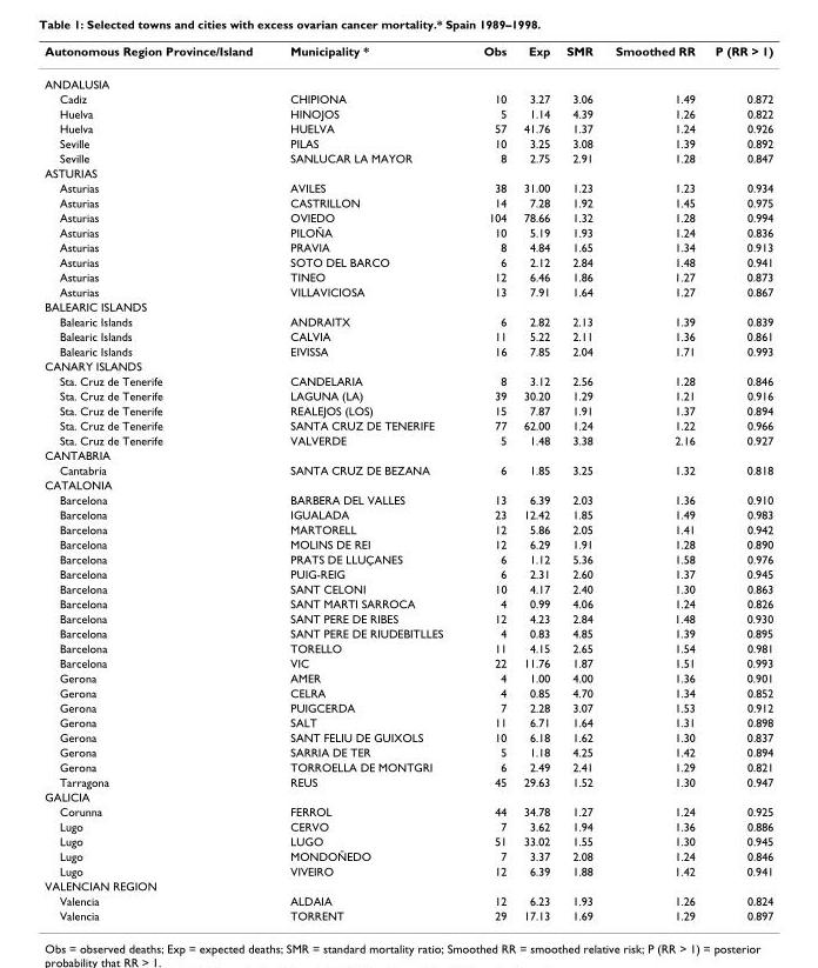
<table><tbody><tr><td>Autonomous Region Province/Island</td><td>Municipality *</td><td>Obs</td><td>Exp</td><td>SMR</td><td>Smoothed RR</td><td>P (RR &gt; 1)</td></tr><tr><td colspan="7">ANDALUSIA</td></tr><tr><td>Cadiz</td><td>CHIPIONA</td><td>10</td><td>3.27</td><td>3.06</td><td>1.49</td><td>0.872</td></tr><tr><td>Huelva</td><td>HINOJOS</td><td>5</td><td>1.14</td><td>4.39</td><td>1.26</td><td>0.822</td></tr><tr><td>Huelva</td><td>HUELVA</td><td>57</td><td>41.76</td><td>1.37</td><td>1.24</td><td>0.926</td></tr><tr><td>Seville</td><td>PILAS</td><td>10</td><td>3.25</td><td>3.08</td><td>1.39</td><td>0.892</td></tr><tr><td>Seville</td><td>SANLUCAR LA MAYOR</td><td>8</td><td>2.75</td><td>2.91</td><td>1.28</td><td>0.847</td></tr><tr><td colspan="7">ASTURIAS</td></tr><tr><td>Asturias</td><td>AVILES</td><td>38</td><td>31.00</td><td>1.23</td><td>1.23</td><td>0.934</td></tr><tr><td>Asturias</td><td>CASTRILLON</td><td>14</td><td>7.28</td><td>1.92</td><td>1.45</td><td>0.975</td></tr><tr><td>Asturias</td><td>OVIEDO</td><td>104</td><td>78.66</td><td>1.32</td><td>1.28</td><td>0.994</td></tr><tr><td>Asturias</td><td>PILOÑA</td><td>10</td><td>5.19</td><td>1.93</td><td>1.24</td><td>0.836</td></tr><tr><td>Asturias</td><td>PRAVIA</td><td>8</td><td>4.84</td><td>1.65</td><td>1.34</td><td>0.913</td></tr><tr><td>Asturias</td><td>SOTO DEL BARCO</td><td>6</td><td>2.12</td><td>2.84</td><td>1.48</td><td>0.941</td></tr><tr><td>Asturias</td><td>TINEO</td><td>12</td><td>6.46</td><td>1.86</td><td>1.27</td><td>0.873</td></tr><tr><td>Asturias</td><td>VILLAVICIOSA</td><td>13</td><td>7.91</td><td>1.64</td><td>1.27</td><td>0.867</td></tr><tr><td colspan="7">BALEARIC ISLANDS</td></tr><tr><td>Balearic Islands</td><td>ANDRAITX</td><td>6</td><td>2.82</td><td>2.13</td><td>1.39</td><td>0.839</td></tr><tr><td>Balearic Islands</td><td>CALVIA</td><td>11</td><td>5.22</td><td>2.11</td><td>1.36</td><td>0.861</td></tr><tr><td>Balearic Islands</td><td>EIVISSA</td><td>16</td><td>7.85</td><td>2.04</td><td>1.71</td><td>0.993</td></tr><tr><td colspan="7">CANARY ISLANDS</td></tr><tr><td>Sta. Cruz de Tenerife</td><td>CANDELARIA</td><td>8</td><td>3.12</td><td>2.56</td><td>1.28</td><td>0.846</td></tr><tr><td>Sta. Cruz de Tenerife</td><td>LAGUNA (LA)</td><td>39</td><td>30.20</td><td>1.29</td><td>1.21</td><td>0.916</td></tr><tr><td>Sta. Cruz de Tenerife</td><td>REALEJOS (LOS)</td><td>15</td><td>7.87</td><td>1.91</td><td>1.37</td><td>0.894</td></tr><tr><td>Sta. Cruz de Tenerife</td><td>SANTA CRUZ DE TENERIFE</td><td>77</td><td>62.00</td><td>1.24</td><td>1.22</td><td>0.966</td></tr><tr><td>Sta. Cruz de Tenerife</td><td>VALVERDE</td><td>5</td><td>1.48</td><td>3.38</td><td>2.16</td><td>0.927</td></tr><tr><td colspan="7">CANTABRIA</td></tr><tr><td>Cantabria</td><td>SANTA CRUZ DE BEZANA</td><td>6</td><td>1.85</td><td>3.25</td><td>1.32</td><td>0.818</td></tr><tr><td colspan="7">CATALONIA</td></tr><tr><td>Barcelona</td><td>BARBERA DEL VALLES</td><td>13</td><td>6.39</td><td>2.03</td><td>1.36</td><td>0.910</td></tr><tr><td>Barcelona</td><td>IGUALADA</td><td>23</td><td>12.42</td><td>1.85</td><td>1.49</td><td>0.983</td></tr><tr><td>Barcelona</td><td>MARTORELL</td><td>12</td><td>5.86</td><td>2.05</td><td>1.41</td><td>0.942</td></tr><tr><td>Barcelona</td><td>MOLINS DE REI</td><td>12</td><td>6.29</td><td>1.91</td><td>1.28</td><td>0.890</td></tr><tr><td>Barcelona</td><td>PRATS DE LLUÇANES</td><td>6</td><td>1.12</td><td>5.36</td><td>1.58</td><td>0.976</td></tr><tr><td>Barcelona</td><td>PUIG-REIG</td><td>6</td><td>2.31</td><td>2.60</td><td>1.37</td><td>0.945</td></tr><tr><td>Barcelona</td><td>SANT CELONI</td><td>10</td><td>4.17</td><td>2.40</td><td>1.30</td><td>0.863</td></tr><tr><td>Barcelona</td><td>SANT MARTI SARROCA</td><td>4</td><td>0.99</td><td>4.06</td><td>1.24</td><td>0.826</td></tr><tr><td>Barcelona</td><td>SANT PERE DE RIBES</td><td>12</td><td>4.23</td><td>2.84</td><td>1.48</td><td>0.930</td></tr><tr><td>Barcelona</td><td>SANT PERE DE RIUDEBITLLES</td><td>4</td><td>0.83</td><td>4.85</td><td>1.39</td><td>0.895</td></tr><tr><td>Barcelona</td><td>TORELLO</td><td>11</td><td>4.15</td><td>2.65</td><td>1.54</td><td>0.981</td></tr><tr><td>Barcelona</td><td>VIC</td><td>22</td><td>11.76</td><td>1.87</td><td>1.51</td><td>0.993</td></tr><tr><td>Gerona</td><td>AMER</td><td>4</td><td>1.00</td><td>4.00</td><td>1.36</td><td>0.901</td></tr><tr><td>Gerona</td><td>CELRA</td><td>4</td><td>0.85</td><td>4.70</td><td>1.34</td><td>0.852</td></tr><tr><td>Gerona</td><td>PUIGCERDA</td><td>7</td><td>2.28</td><td>3.07</td><td>1.53</td><td>0.912</td></tr><tr><td>Gerona</td><td>SALT</td><td>11</td><td>6.71</td><td>1.64</td><td>1.31</td><td>0.898</td></tr><tr><td>Gerona</td><td>SANT FELIU DE GUIXOLS</td><td>10</td><td>6.18</td><td>1.62</td><td>1.30</td><td>0.837</td></tr><tr><td>Gerona</td><td>SARRIA DE TER</td><td>5</td><td>1.18</td><td>4.25</td><td>1.42</td><td>0.894</td></tr><tr><td>Gerona</td><td>TORROELLA DE MONTGRI</td><td>6</td><td>2.49</td><td>2.41</td><td>1.29</td><td>0.821</td></tr><tr><td>Tarragona</td><td>REUS</td><td>45</td><td>29.63</td><td>1.52</td><td>1.30</td><td>0.947</td></tr><tr><td colspan="7">GALICIA</td></tr><tr><td>Corunna</td><td>FERROL</td><td>44</td><td>34.78</td><td>1.27</td><td>1.24</td><td>0.925</td></tr><tr><td>Lugo</td><td>CERVO</td><td>7</td><td>3.62</td><td>1.94</td><td>1.36</td><td>0.886</td></tr><tr><td>Lugo</td><td>LUGO</td><td>51</td><td>33.02</td><td>1.55</td><td>1.30</td><td>0.945</td></tr><tr><td>Lugo</td><td>MONDOÑEDO</td><td>7</td><td>3.37</td><td>2.08</td><td>1.24</td><td>0.846</td></tr><tr><td>Lugo</td><td>VIVEIRO</td><td>12</td><td>6.39</td><td>1.88</td><td>1.42</td><td>0.941</td></tr><tr><td colspan="7">VALENCIAN REGION</td></tr><tr><td>Valencia</td><td>ALDAIA</td><td>12</td><td>6.23</td><td>1.93</td><td>1.26</td><td>0.824</td></tr><tr><td>Valencia</td><td>TORRENT</td><td>29</td><td>17.13</td><td>1.69</td><td>1.29</td><td>0.897</td></tr></tbody></table>